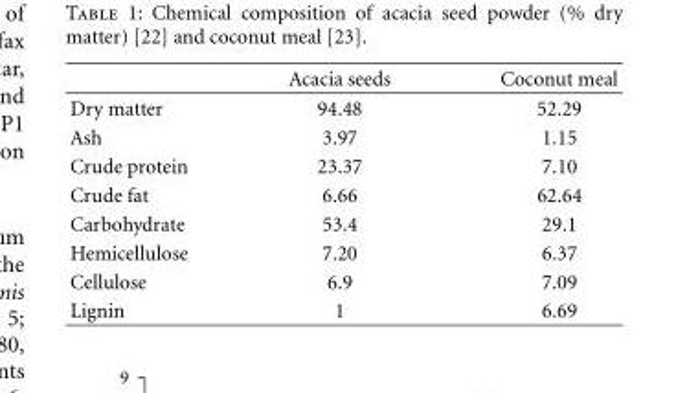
<table><thead><tr><td></td><td>Acacia seeds</td><td>Coconut meal</td></tr></thead><tbody><tr><td>Dry matter</td><td>94.48</td><td>52.29</td></tr><tr><td>Ash</td><td>3.97</td><td>1.15</td></tr><tr><td>Crude protein</td><td>23.37</td><td>7.10</td></tr><tr><td>Crude fat</td><td>6.66</td><td>62.64</td></tr><tr><td>Carbohydrate</td><td>53.4</td><td>29.1</td></tr><tr><td>Hemicellulose</td><td>7.20</td><td>6.37</td></tr><tr><td>Cellulose</td><td>6.9</td><td>7.09</td></tr><tr><td>Lignin</td><td>1</td><td>6.69</td></tr></tbody></table>